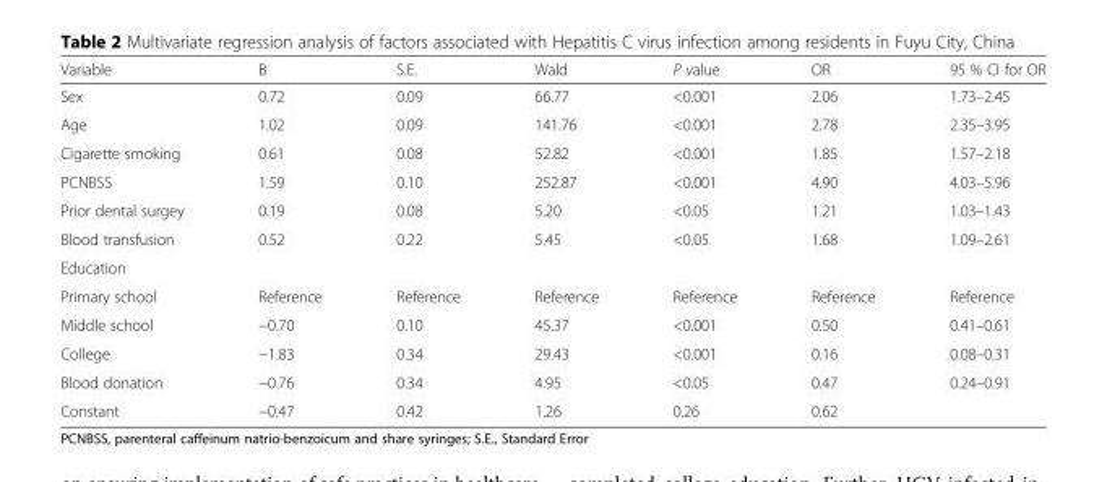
<table><thead><tr><td>Variable</td><td>B</td><td>S.E.</td><td>Wald</td><td>P value</td><td>OR</td><td>95 % CI for OR</td></tr></thead><tbody><tr><td>Sex</td><td>0.72</td><td>0.09</td><td>66.77</td><td>&lt;0.001</td><td>2.06</td><td>1.73–2.45</td></tr><tr><td>Age</td><td>1.02</td><td>0.09</td><td>141.76</td><td>&lt;0.001</td><td>2.78</td><td>2.35–3.95</td></tr><tr><td>Cigarette smoking</td><td>0.61</td><td>0.08</td><td>52.82</td><td>&lt;0.001</td><td>1.85</td><td>1.57–2.18</td></tr><tr><td>PCNBSS</td><td>1.59</td><td>0.10</td><td>252.87</td><td>&lt;0.001</td><td>4.90</td><td>4.03–5.96</td></tr><tr><td>Prior dental surgey</td><td>0.19</td><td>0.08</td><td>5.20</td><td>&lt;0.05</td><td>1.21</td><td>1.03–1.43</td></tr><tr><td>Blood transfusion</td><td>0.52</td><td>0.22</td><td>5.45</td><td>&lt;0.05</td><td>1.68</td><td>1.09–2.61</td></tr><tr><td colspan="7">Education</td></tr><tr><td>Primary school</td><td>Reference</td><td>Reference</td><td>Reference</td><td>Reference</td><td>Reference</td><td>Reference</td></tr><tr><td>Middle school</td><td>−0.70</td><td>0.10</td><td>45.37</td><td>&lt;0.001</td><td>0.50</td><td>0.41–0.61</td></tr><tr><td>College</td><td>−1.83</td><td>0.34</td><td>29.43</td><td>&lt;0.001</td><td>0.16</td><td>0.08–0.31</td></tr><tr><td>Blood donation</td><td>−0.76</td><td>0.34</td><td>4.95</td><td>&lt;0.05</td><td>0.47</td><td>0.24–0.91</td></tr><tr><td>Constant</td><td>−0.47</td><td>0.42</td><td>1.26</td><td>0.26</td><td>0.62</td><td></td></tr></tbody></table>